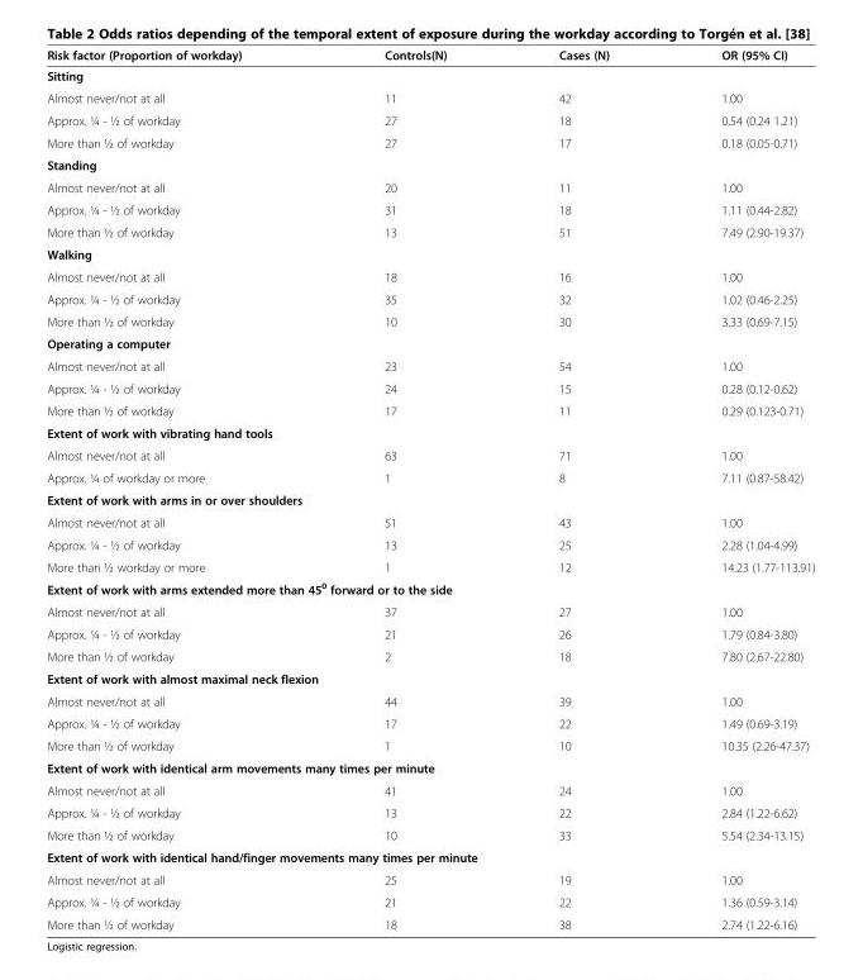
<table><thead><tr><td>Risk factor (Proportion of workday)</td><td>Controls(N)</td><td>Cases (N)</td><td>OR (95% CI)</td></tr></thead><tbody><tr><td colspan="4">Sitting</td></tr><tr><td>Almost never/not at all</td><td>11</td><td>42</td><td>1.00</td></tr><tr><td>Approx. ¼ - ½ of workday</td><td>27</td><td>18</td><td>0.54 (0.24 1.21)</td></tr><tr><td>More than ½ of workday</td><td>27</td><td>17</td><td>0.18 (0.05-0.71)</td></tr><tr><td colspan="4">Standing</td></tr><tr><td>Almost never/not at all</td><td>20</td><td>11</td><td>1.00</td></tr><tr><td>Approx. ¼ - ½ of workday</td><td>31</td><td>18</td><td>1.11 (0.44-2.82)</td></tr><tr><td>More than ½ of workday</td><td>13</td><td>51</td><td>7.49 (2.90-19.37)</td></tr><tr><td colspan="4">Walking</td></tr><tr><td>Almost never/not at all</td><td>18</td><td>16</td><td>1.00</td></tr><tr><td>Approx. ¼ - ½ of workday</td><td>35</td><td>32</td><td>1.02 (0.46-2.25)</td></tr><tr><td>More than ½ of workday</td><td>10</td><td>30</td><td>3.33 (0.69-7.15)</td></tr><tr><td colspan="4">Operating a computer</td></tr><tr><td>Almost never/not at all</td><td>23</td><td>54</td><td>1.00</td></tr><tr><td>Approx. ¼ - ½ of workday</td><td>24</td><td>15</td><td>0.28 (0.12-0.62)</td></tr><tr><td>More than ½ of workday</td><td>17</td><td>11</td><td>0.29 (0.123-0.71)</td></tr><tr><td colspan="4">Extent of work with vibrating hand tools</td></tr><tr><td>Almost never/not at all</td><td>63</td><td>71</td><td>1.00</td></tr><tr><td>Approx. ¼ of workday or more</td><td>1</td><td>8</td><td>7.11 (0.87-58.42)</td></tr><tr><td colspan="4">Extent of work with arms in or over shoulders</td></tr><tr><td>Almost never/not at all</td><td>51</td><td>43</td><td>1.00</td></tr><tr><td>Approx. ¼ - ½ of workday</td><td>13</td><td>25</td><td>2.28 (1.04-4.99)</td></tr><tr><td>More than ½ workday or more</td><td>1</td><td>12</td><td>14.23 (1.77-113.91)</td></tr><tr><td colspan="4">Extent of work with arms extended more than 45<sup>0</sup> forward or to the side</td></tr><tr><td>Almost never/not at all</td><td>37</td><td>27</td><td>1.00</td></tr><tr><td>Approx. ¼ - ½ of workday</td><td>21</td><td>26</td><td>1.79 (0.84-3.80)</td></tr><tr><td>More than ½ of workday</td><td>2</td><td>18</td><td>7.80 (2.67-22.80)</td></tr><tr><td colspan="4">Extent of work with almost maximal neck flexion</td></tr><tr><td>Almost never/not at all</td><td>44</td><td>39</td><td>1.00</td></tr><tr><td>Approx. ¼ - ½ of workday</td><td>17</td><td>22</td><td>1.49 (0.69-3.19)</td></tr><tr><td>More than ½ of workday</td><td>1</td><td>10</td><td>10.35 (2.26-47.37)</td></tr><tr><td colspan="4">Extent of work with identical arm movements many times per minute</td></tr><tr><td>Almost never/not at all</td><td>41</td><td>24</td><td>1.00</td></tr><tr><td>Approx. ¼ - ½ of workday</td><td>13</td><td>22</td><td>2.84 (1.22-6.62)</td></tr><tr><td>More than ½ of workday</td><td>10</td><td>33</td><td>5.54 (2.34-13.15)</td></tr><tr><td colspan="4">Extent of work with identical hand/finger movements many times per minute</td></tr><tr><td>Almost never/not at all</td><td>25</td><td>19</td><td>1.00</td></tr><tr><td>Approx. ¼ - ½ of workday</td><td>21</td><td>22</td><td>1.36 (0.59-3.14)</td></tr><tr><td>More than ½ of workday</td><td>18</td><td>38</td><td>2.74 (1.22-6.16)</td></tr></tbody></table>